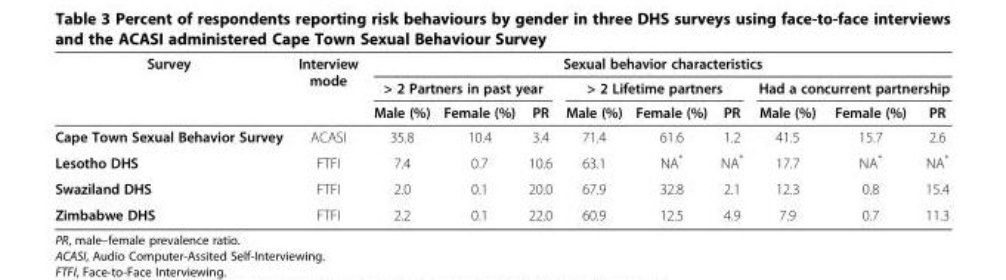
<table><thead><tr><td rowspan="3">Survey</td><td rowspan="3">Interview mode</td><td colspan="9">Sexual behavior characteristics</td></tr><tr><td colspan="3">&gt; 2 Partners in past year</td><td colspan="3">&gt; 2 Lifetime partners</td><td colspan="3">Had a concurrent partnership</td></tr><tr><td>Male (%)</td><td>Female (%)</td><td>PR</td><td>Male (%)</td><td>Female (%)</td><td>PR</td><td>Male (%)</td><td>Female (%)</td><td>PR</td></tr></thead><tbody><tr><td>Cape Town Sexual Behavior Survey</td><td>ACASI</td><td>35.8</td><td>10.4</td><td>3.4</td><td>71.4</td><td>61.6</td><td>1.2</td><td>41.5</td><td>15.7</td><td>2.6</td></tr><tr><td>Lesotho DHS</td><td>FTFI</td><td>7.4</td><td>0.7</td><td>10.6</td><td>63.1</td><td>NA*</td><td>NA*</td><td>17.7</td><td>NA*</td><td>NA*</td></tr><tr><td>Swaziland DHS</td><td>FTFI</td><td>2.0</td><td>0.1</td><td>20.0</td><td>67.9</td><td>32.8</td><td>2.1</td><td>12.3</td><td>0.8</td><td>15.4</td></tr><tr><td>Zimbabwe DHS</td><td>FTFI</td><td>2.2</td><td>0.1</td><td>22.0</td><td>60.9</td><td>12.5</td><td>4.9</td><td>7.9</td><td>0.7</td><td>11.3</td></tr></tbody></table>